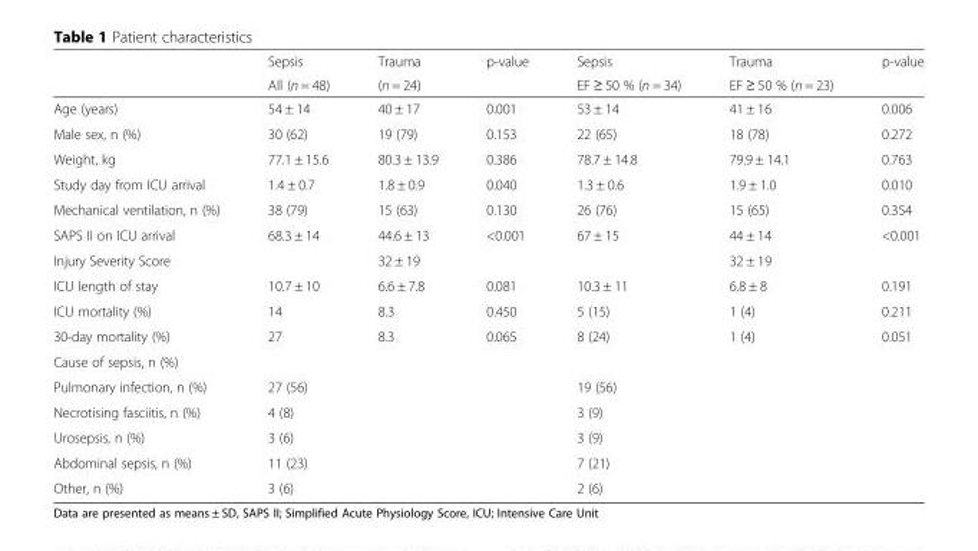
<table><thead><tr><td rowspan="2"></td><td rowspan="2">Sepsis All (n = 48)</td><td rowspan="2">Trauma (n = 24)</td><td rowspan="2">p-value</td><td rowspan="2">Sepsis EF ≥ 50 % (n = 34)</td><td rowspan="2">Trauma EF ≥ 50 % (n = 23)</td><td rowspan="2">p-value</td></tr><tr></tr></thead><tbody><tr><td>Age (years)</td><td>54 ± 14</td><td>40 ± 17</td><td>0.001</td><td>53 ± 14</td><td>41 ± 16</td><td>0.006</td></tr><tr><td>Male sex, n (%)</td><td>30 (62)</td><td>19 (79)</td><td>0.153</td><td>22 (65)</td><td>18 (78)</td><td>0.272</td></tr><tr><td>Weight, kg</td><td>77.1 ± 15.6</td><td>80.3 ± 13.9</td><td>0.386</td><td>78.7 ± 14.8</td><td>79.9 ± 14.1</td><td>0.763</td></tr><tr><td>Study day from ICU arrival</td><td>1.4 ± 0.7</td><td>1.8 ± 0.9</td><td>0.040</td><td>1.3 ± 0.6</td><td>1.9 ± 1.0</td><td>0.010</td></tr><tr><td>Mechanical ventilation, n (%)</td><td>38 (79)</td><td>15 (63)</td><td>0.130</td><td>26 (76)</td><td>15 (65)</td><td>0.354</td></tr><tr><td>SAPS II on ICU arrival</td><td>68.3 ± 14</td><td>44.6 ± 13</td><td>&lt;0.001</td><td>67 ± 15</td><td>44 ± 14</td><td>&lt;0.001</td></tr><tr><td>Injury Severity Score</td><td></td><td>32 ± 19</td><td></td><td></td><td>32 ± 19</td><td></td></tr><tr><td>ICU length of stay</td><td>10.7 ± 10</td><td>6.6 ± 7.8</td><td>0.081</td><td>10.3 ± 11</td><td>6.8 ± 8</td><td>0.191</td></tr><tr><td>ICU mortality (%)</td><td>14</td><td>8.3</td><td>0.450</td><td>5 (15)</td><td>1 (4)</td><td>0.211</td></tr><tr><td>30-day mortality (%)</td><td>27</td><td>8.3</td><td>0.065</td><td>8 (24)</td><td>1 (4)</td><td>0.051</td></tr><tr><td colspan="7">Cause of sepsis, n (%)</td></tr><tr><td>Pulmonary infection, n (%)</td><td>27 (56)</td><td></td><td></td><td>19 (56)</td><td></td><td></td></tr><tr><td>Necrotising fasciitis, n (%)</td><td>4 (8)</td><td></td><td></td><td>3 (9)</td><td></td><td></td></tr><tr><td>Urosepsis, n (%)</td><td>3 (6)</td><td></td><td></td><td>3 (9)</td><td></td><td></td></tr><tr><td>Abdominal sepsis, n (%)</td><td>11 (23)</td><td></td><td></td><td>7 (21)</td><td></td><td></td></tr><tr><td>Other, n (%)</td><td>3 (6)</td><td></td><td></td><td>2 (6)</td><td></td><td></td></tr></tbody></table>